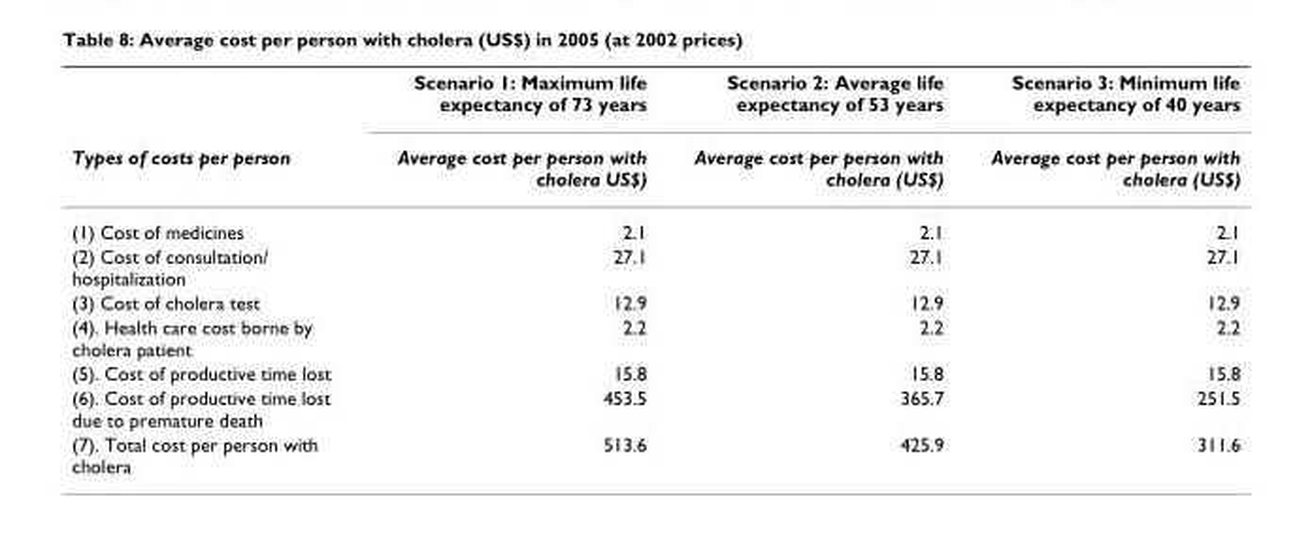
<table><thead><tr><td rowspan="2">Types of costs per person</td><td rowspan="2">Scenario 1: Maximum life expectancy of 73 years Average cost per person with cholera US$)</td><td rowspan="2">Scenario 2: Average life expectancy of 53 years Average cost per person with cholera (US$)</td><td rowspan="2">Scenario 3: Minimum life expectancy of 40 years Average cost per person with cholera (US$)</td></tr><tr></tr></thead><tbody><tr><td>(1) Cost of medicines</td><td>2.1</td><td>2.1</td><td>2.1</td></tr><tr><td>(2) Cost of consultation/ hospitalization</td><td>27.1</td><td>27.1</td><td>27.1</td></tr><tr><td>(3) Cost of cholera test</td><td>12.9</td><td>12.9</td><td>12.9</td></tr><tr><td>(4). Health care cost borne by cholera patient</td><td>2.2</td><td>2.2</td><td>2.2</td></tr><tr><td>(5). Cost of productive time lost</td><td>15.8</td><td>15.8</td><td>15.8</td></tr><tr><td>(6). Cost of productive time lost due to premature death</td><td>453.5</td><td>365.7</td><td>251.5</td></tr><tr><td>(7). Total cost per person with cholera</td><td>513.6</td><td>425.9</td><td>311.6</td></tr></tbody></table>